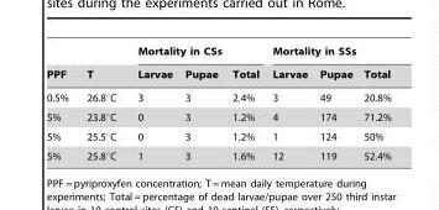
<table><thead><tr><td rowspan="2">PPF</td><td rowspan="2">T</td><td colspan="3">Mortality in CSs</td><td colspan="3">Mortality in SSs</td></tr><tr><td>Larvae</td><td>Pupae</td><td>Total</td><td>Larvae</td><td>Pupae</td><td>Total</td></tr></thead><tbody><tr><td>0.5%</td><td>26.8°C</td><td>3</td><td>3</td><td>2.4%</td><td>3</td><td>49</td><td>20.8%</td></tr><tr><td>5%</td><td>23.8°C</td><td>0</td><td>3</td><td>1.2%</td><td>4</td><td>174</td><td>71.2%</td></tr><tr><td>5%</td><td>25.5°C</td><td>0</td><td>3</td><td>1.2%</td><td>1</td><td>124</td><td>50%</td></tr><tr><td>5%</td><td>25.8°C</td><td>1</td><td>3</td><td>1.6%</td><td>12</td><td>119</td><td>52.4%</td></tr></tbody></table>